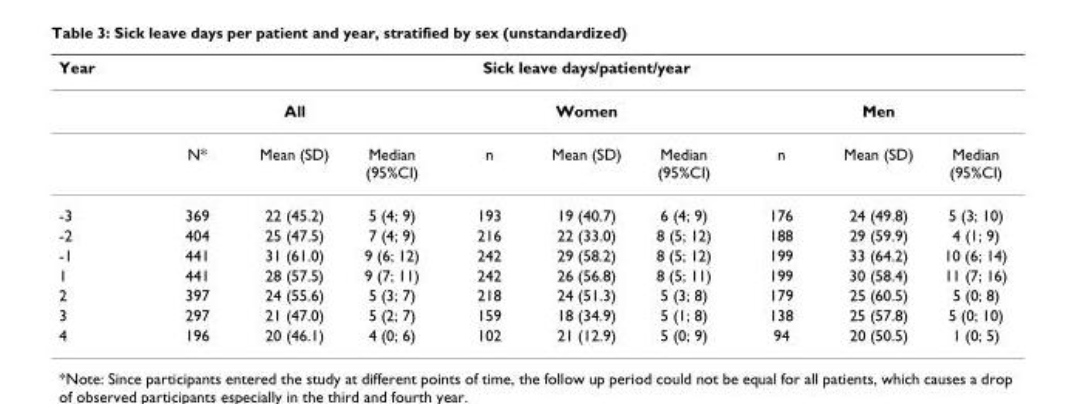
<table><thead><tr><td rowspan="3">Year</td><td colspan="9">Sick leave days/patient/year</td></tr><tr><td colspan="3">All</td><td colspan="3">Women</td><td colspan="3">Men</td></tr><tr><td>N*</td><td>Mean (SD)</td><td>Median (95%CI)</td><td>n</td><td>Mean (SD)</td><td>Median (95%CI)</td><td>n</td><td>Mean (SD)</td><td>Median (95%CI)</td></tr></thead><tbody><tr><td>-3</td><td>369</td><td>22 (45.2)</td><td>5 (4; 9)</td><td>193</td><td>19 (40.7)</td><td>6 (4; 9)</td><td>176</td><td>24 (49.8)</td><td>5 (3; 10)</td></tr><tr><td>-2</td><td>404</td><td>25 (47.5)</td><td>7 (4; 9)</td><td>216</td><td>22 (33.0)</td><td>8 (5; 12)</td><td>188</td><td>29 (59.9)</td><td>4 (1; 9)</td></tr><tr><td>-1</td><td>441</td><td>31 (61.0)</td><td>9 (6; 12)</td><td>242</td><td>29 (58.2)</td><td>8 (5; 12)</td><td>199</td><td>33 (64.2)</td><td>10 (6; 14)</td></tr><tr><td>1</td><td>441</td><td>28 (57.5)</td><td>9 (7; 11)</td><td>242</td><td>26 (56.8)</td><td>8 (5; 11)</td><td>199</td><td>30 (58.4)</td><td>11 (7; 16)</td></tr><tr><td>2</td><td>397</td><td>24 (55.6)</td><td>5 (3; 7)</td><td>218</td><td>24 (51.3)</td><td>5 (3; 8)</td><td>179</td><td>25 (60.5)</td><td>5 (0; 8)</td></tr><tr><td>3</td><td>297</td><td>21 (47.0)</td><td>5 (2; 7)</td><td>159</td><td>18 (34.9)</td><td>5 (1; 8)</td><td>138</td><td>25 (57.8)</td><td>5 (0; 10)</td></tr><tr><td>4</td><td>196</td><td>20 (46.1)</td><td>4 (0; 6)</td><td>102</td><td>21 (12.9)</td><td>5 (0; 9)</td><td>94</td><td>20 (50.5)</td><td>1 (0; 5)</td></tr></tbody></table>